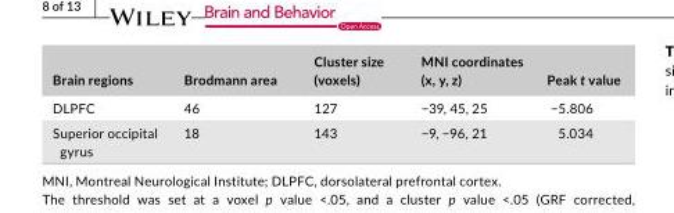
<table><thead><tr><td>Brain regions</td><td>Brodmann area</td><td>Cluster size (voxels)</td><td>MNI coordinates (x, y, z)</td><td>Peak t value</td></tr></thead><tbody><tr><td>DLPFC</td><td>46</td><td>127</td><td>−39, 45, 25</td><td>−5.806</td></tr><tr><td>Superior occipital gyrus</td><td>18</td><td>143</td><td>−9, −96, 21</td><td>5.034</td></tr></tbody></table>